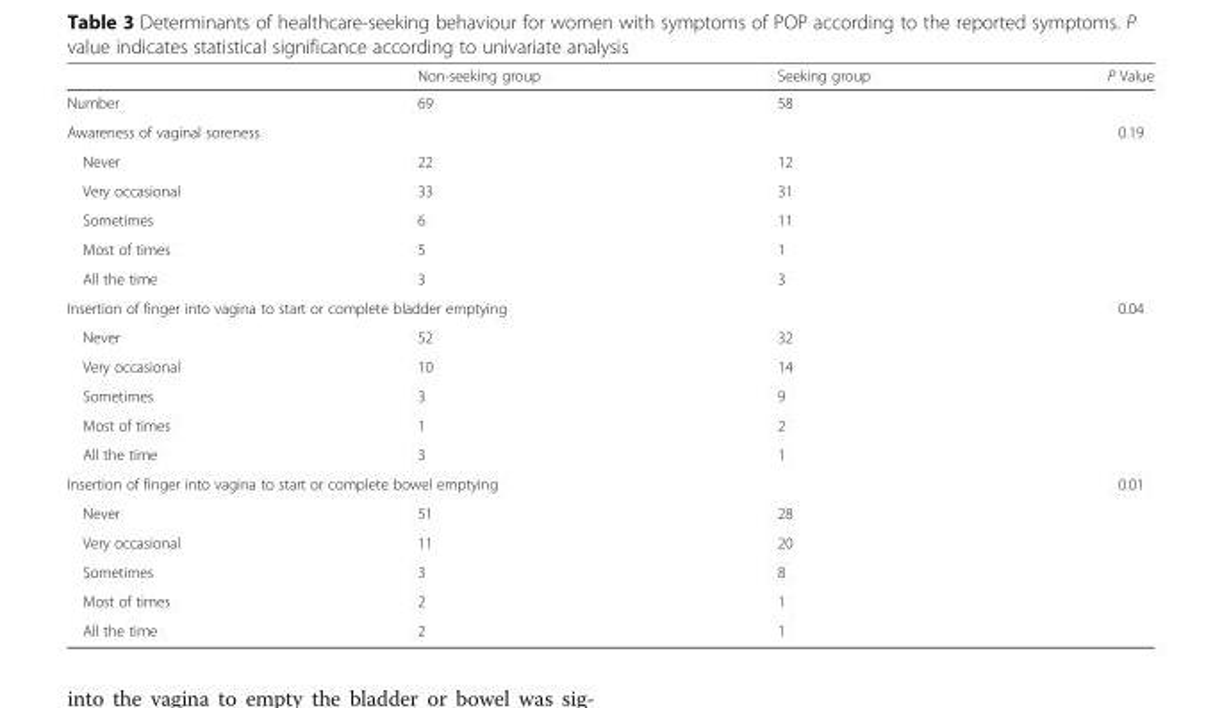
<table><thead><tr><td></td><td>Non-seeking group</td><td>Seeking group</td><td>P Value</td></tr></thead><tbody><tr><td>Number</td><td>69</td><td>58</td><td></td></tr><tr><td colspan="3">Awareness of vaginal soreness</td><td>0.19</td></tr><tr><td>Never</td><td>22</td><td>12</td><td></td></tr><tr><td>Very occasional</td><td>33</td><td>31</td><td></td></tr><tr><td>Sometimes</td><td>6</td><td>11</td><td></td></tr><tr><td>Most of times</td><td>5</td><td>1</td><td></td></tr><tr><td>All the time</td><td>3</td><td>3</td><td></td></tr><tr><td colspan="3">Insertion of finger into vagina to start or complete bladder emptying</td><td>0.04</td></tr><tr><td>Never</td><td>52</td><td>32</td><td></td></tr><tr><td>Very occasional</td><td>10</td><td>14</td><td></td></tr><tr><td>Sometimes</td><td>3</td><td>9</td><td></td></tr><tr><td>Most of times</td><td>1</td><td>2</td><td></td></tr><tr><td>All the time</td><td>3</td><td>1</td><td></td></tr><tr><td colspan="3">Insertion of finger into vagina to start or complete bowel emptying</td><td>0.01</td></tr><tr><td>Never</td><td>51</td><td>28</td><td></td></tr><tr><td>Very occasional</td><td>11</td><td>20</td><td></td></tr><tr><td>Sometimes</td><td>3</td><td>8</td><td></td></tr><tr><td>Most of times</td><td>2</td><td>1</td><td></td></tr><tr><td>All the time</td><td>2</td><td>1</td><td></td></tr></tbody></table>